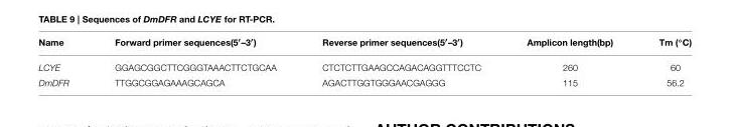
<table><thead><tr><td>Name</td><td>Forward primer sequences(5′–3′)</td><td>Reverse primer sequences(5′–3′)</td><td>Amplicon length(bp)</td><td>Tm (◦C)</td></tr></thead><tbody><tr><td>LCYE</td><td>GGAGCGGCTTCGGGTAAACTTCTGCAA</td><td>CTCTCTTGAAGCCAGACAGGTTTCCTC</td><td>260</td><td>60</td></tr><tr><td>DmDFR</td><td>TTGGCGGAGAAAGCAGCA</td><td>AGACTTGGTGGGAACGAGGG</td><td>115</td><td>56.2</td></tr></tbody></table>